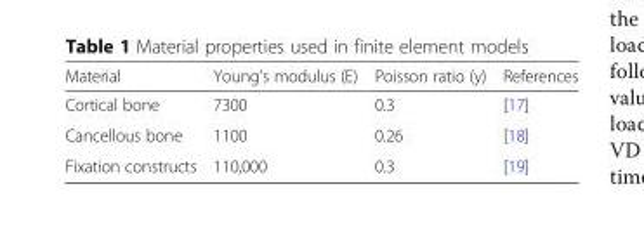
<table><thead><tr><td>Material</td><td>Young’s modulus (E)</td><td>Poisson ratio (y)</td><td>References</td></tr></thead><tbody><tr><td>Cortical bone</td><td>7300</td><td>0.3</td><td>[17]</td></tr><tr><td>Cancellous bone</td><td>1100</td><td>0.26</td><td>[18]</td></tr><tr><td>Fixation constructs</td><td>110,000</td><td>0.3</td><td>[19]</td></tr></tbody></table>